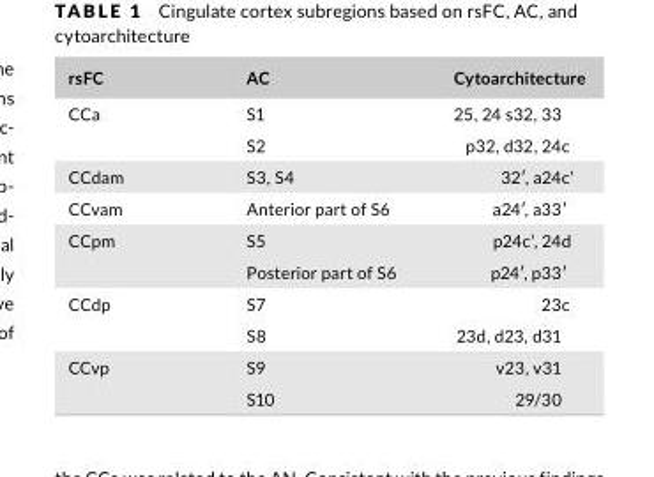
<table><thead><tr><td>rsFC</td><td>AC</td><td>Cytoarchitecture</td></tr></thead><tbody><tr><td rowspan="2">CCa</td><td>S1</td><td>25, 24 s32, 33</td></tr><tr><td>S2</td><td>p32, d32, 24c</td></tr><tr><td>CCdam</td><td>S3, S4</td><td>32′, a24c’</td></tr><tr><td>CCvam</td><td>Anterior part of S6</td><td>a24′, a33′</td></tr><tr><td rowspan="2">CCpm</td><td>S5</td><td>p24c’, 24d</td></tr><tr><td>Posterior part of S6</td><td>p24′, p33′</td></tr><tr><td rowspan="2">CCdp</td><td>S7</td><td>23c</td></tr><tr><td>S8</td><td>23d, d23, d31</td></tr><tr><td rowspan="2">CCvp</td><td>S9</td><td>v23, v31</td></tr><tr><td>S10</td><td>29/30</td></tr></tbody></table>